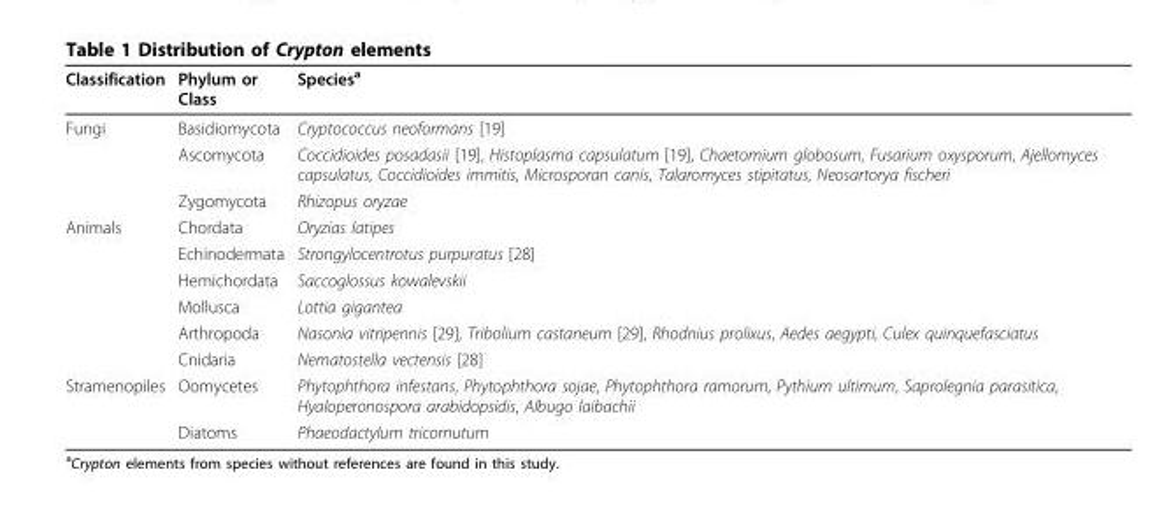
<table><thead><tr><td>Classification</td><td>Phylum or Class</td><td>Species<sup>a</sup></td></tr></thead><tbody><tr><td rowspan="3">Fungi</td><td>Basidiomycota</td><td>Cryptococcus neoformans [19]</td></tr><tr><td>Ascomycota</td><td>Coccidioides posadasii [19], Histoplasma capsulatum [19], Chaetomium globosum, Fusarium oxysporum, Ajellomyces capsulatus, Coccidioides immitis, Microsporan canis, Talaromyces stipitatus, Neosartorya fischeri</td></tr><tr><td>Zygomycota</td><td>Rhizopus oryzae</td></tr><tr><td rowspan="6">Animals</td><td>Chordata</td><td>Oryzias latipes</td></tr><tr><td>Echinodermata</td><td>Strongylocentrotus purpuratus [28]</td></tr><tr><td>Hemichordata</td><td>Saccoglossus kowalevskii</td></tr><tr><td>Mollusca</td><td>Lottia gigantea</td></tr><tr><td>Arthropoda</td><td>Nasonia vitripennis [29], Tribolium castaneum [29], Rhodnius prolixus, Aedes aegypti, Culex quinquefasciatus</td></tr><tr><td>Cnidaria</td><td>Nematostella vectensis [28]</td></tr><tr><td rowspan="2">Stramenopiles</td><td>Oomycetes</td><td>Phytophthora infestans, Phytophthora sojae, Phytophthora ramorum, Pythium ultimum, Saprolegnia parasitica, Hyaloperonospora arabidopsidis, Albugo laibachii</td></tr><tr><td>Diatoms</td><td>Phaeodactylum tricornutum</td></tr></tbody></table>